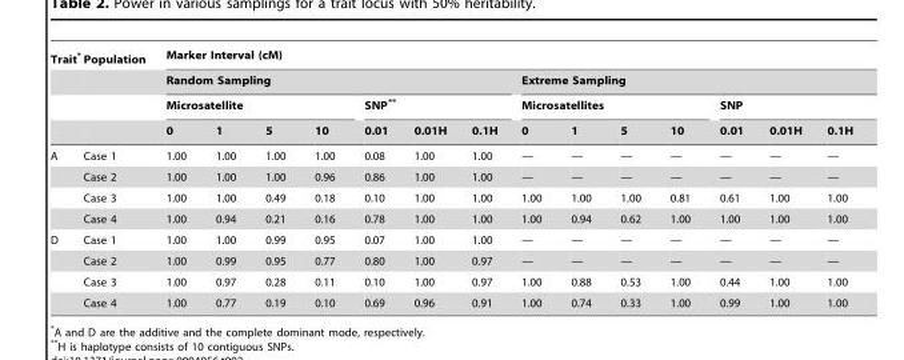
<table><thead><tr><td rowspan="4">Trait*</td><td rowspan="4">Population</td><td colspan="14">Marker Interval (cM)</td></tr><tr><td colspan="7">Random Sampling</td><td colspan="7">Extreme Sampling</td></tr><tr><td colspan="4">Microsatellite</td><td colspan="3">SNP**</td><td colspan="4">Microsatellites</td><td colspan="3">SNP</td></tr><tr><td>0</td><td>1</td><td>5</td><td>10</td><td>0.01</td><td>0.01H</td><td>0.1H</td><td>0</td><td>1</td><td>5</td><td>10</td><td>0.01</td><td>0.01H</td><td>0.1H</td></tr></thead><tbody><tr><td rowspan="4">A</td><td>Case 1</td><td>1.00</td><td>1.00</td><td>1.00</td><td>1.00</td><td>0.08</td><td>1.00</td><td>1.00</td><td>—</td><td>—</td><td>—</td><td>—</td><td>—</td><td>—</td><td>—</td></tr><tr><td>Case 2</td><td>1.00</td><td>1.00</td><td>1.00</td><td>0.96</td><td>0.86</td><td>1.00</td><td>1.00</td><td>—</td><td>—</td><td>—</td><td>—</td><td>—</td><td>—</td><td>—</td></tr><tr><td>Case 3</td><td>1.00</td><td>1.00</td><td>0.49</td><td>0.18</td><td>0.10</td><td>1.00</td><td>1.00</td><td>1.00</td><td>1.00</td><td>1.00</td><td>0.81</td><td>0.61</td><td>1.00</td><td>1.00</td></tr><tr><td>Case 4</td><td>1.00</td><td>0.94</td><td>0.21</td><td>0.16</td><td>0.78</td><td>1.00</td><td>1.00</td><td>1.00</td><td>0.94</td><td>0.62</td><td>1.00</td><td>1.00</td><td>1.00</td><td>1.00</td></tr><tr><td rowspan="4">D</td><td>Case 1</td><td>1.00</td><td>1.00</td><td>0.99</td><td>0.95</td><td>0.07</td><td>1.00</td><td>1.00</td><td>—</td><td>—</td><td>—</td><td>—</td><td>—</td><td>—</td><td>—</td></tr><tr><td>Case 2</td><td>1.00</td><td>0.99</td><td>0.95</td><td>0.77</td><td>0.80</td><td>1.00</td><td>0.97</td><td>—</td><td>—</td><td>—</td><td>—</td><td>—</td><td>—</td><td>—</td></tr><tr><td>Case 3</td><td>1.00</td><td>0.97</td><td>0.28</td><td>0.11</td><td>0.10</td><td>1.00</td><td>0.97</td><td>1.00</td><td>0.88</td><td>0.53</td><td>1.00</td><td>0.44</td><td>1.00</td><td>1.00</td></tr><tr><td>Case 4</td><td>1.00</td><td>0.77</td><td>0.19</td><td>0.10</td><td>0.69</td><td>0.96</td><td>0.91</td><td>1.00</td><td>0.74</td><td>0.33</td><td>1.00</td><td>0.99</td><td>1.00</td><td>1.00</td></tr></tbody></table>